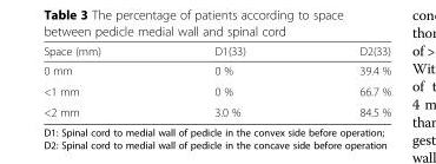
<table><thead><tr><td>Space (mm)</td><td>D1(33)</td><td>D2(33)</td></tr></thead><tbody><tr><td>0 mm</td><td>0 %</td><td>39.4 %</td></tr><tr><td>&lt;1 mm</td><td>0 %</td><td>66.7 %</td></tr><tr><td>&lt;2 mm</td><td>3.0 %</td><td>84.5 %</td></tr></tbody></table>